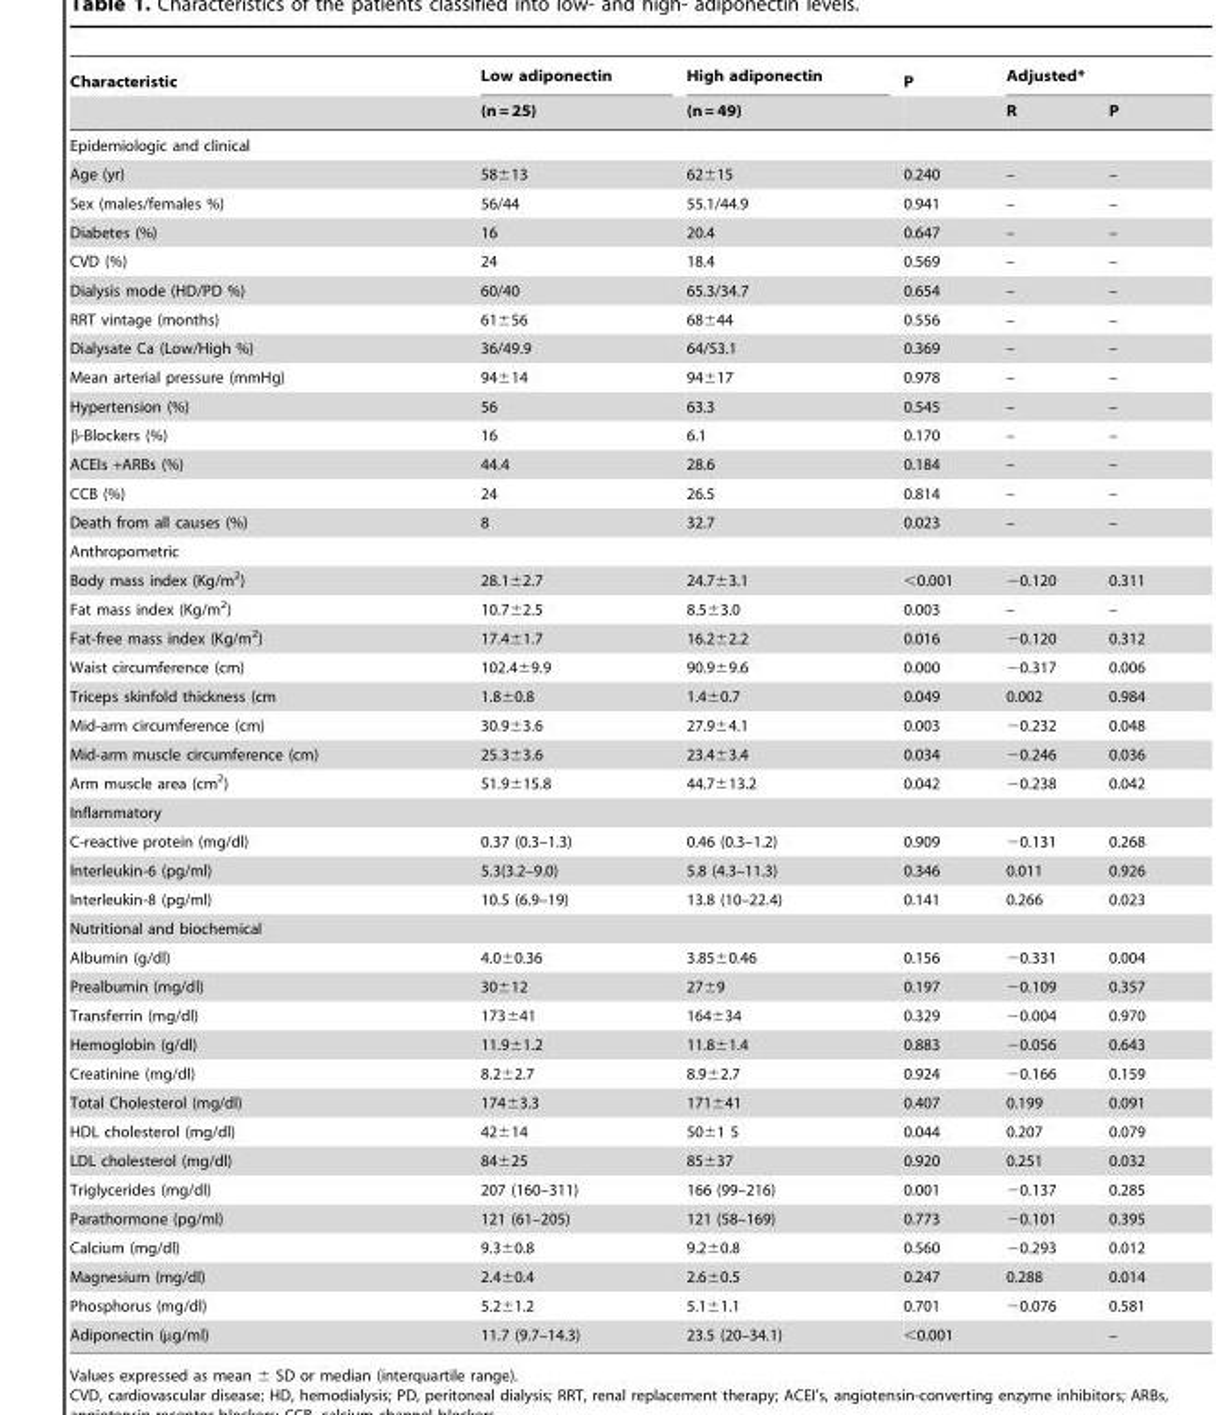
<table><thead><tr><td rowspan="2">Characteristic</td><td rowspan="2">Low adiponectin (n = 25)</td><td rowspan="2">High adiponectin (n = 49)</td><td rowspan="2">P</td><td colspan="2">Adjusted*</td></tr><tr><td>R</td><td>P</td></tr></thead><tbody><tr><td colspan="6">Epidemiologic and clinical</td></tr><tr><td>Age (yr)</td><td>58±13</td><td>62±15</td><td>0.240</td><td>–</td><td>–</td></tr><tr><td>Sex (males/females %)</td><td>56/44</td><td>55.1/44.9</td><td>0.941</td><td>–</td><td>–</td></tr><tr><td>Diabetes (%)</td><td>16</td><td>20.4</td><td>0.647</td><td>–</td><td>–</td></tr><tr><td>CVD (%)</td><td>24</td><td>18.4</td><td>0.569</td><td>–</td><td>–</td></tr><tr><td>Dialysis mode (HD/PD %)</td><td>60/40</td><td>65.3/34.7</td><td>0.654</td><td>–</td><td>–</td></tr><tr><td>RRT vintage (months)</td><td>61±56</td><td>68±44</td><td>0.556</td><td>–</td><td>–</td></tr><tr><td>Dialysate Ca (Low/High %)</td><td>36/49.9</td><td>64/53.1</td><td>0.369</td><td>–</td><td>–</td></tr><tr><td>Mean arterial pressure (mmHg)</td><td>94±14</td><td>94±17</td><td>0.978</td><td>–</td><td>–</td></tr><tr><td>Hypertension (%)</td><td>56</td><td>63.3</td><td>0.545</td><td>–</td><td>–</td></tr><tr><td>β-Blockers (%)</td><td>16</td><td>6.1</td><td>0.170</td><td>–</td><td>–</td></tr><tr><td>ACEIs +ARBs (%)</td><td>44.4</td><td>28.6</td><td>0.184</td><td>–</td><td>–</td></tr><tr><td>CCB (%)</td><td>24</td><td>26.5</td><td>0.814</td><td>–</td><td>–</td></tr><tr><td>Death from all causes (%)</td><td>8</td><td>32.7</td><td>0.023</td><td>–</td><td>–</td></tr><tr><td colspan="6">Anthropometric</td></tr><tr><td>Body mass index (Kg/m<sup>2</sup>)</td><td>28.1±2.7</td><td>24.7±3.1</td><td>&lt;0.001</td><td>−0.120</td><td>0.311</td></tr><tr><td>Fat mass index (Kg/m<sup>2</sup>)</td><td>10.7±2.5</td><td>8.5±3.0</td><td>0.003</td><td>–</td><td>–</td></tr><tr><td>Fat-free mass index (Kg/m<sup>2</sup>)</td><td>17.4±1.7</td><td>16.2±2.2</td><td>0.016</td><td>−0.120</td><td>0.312</td></tr><tr><td>Waist circumference (cm)</td><td>102.4±9.9</td><td>90.9±9.6</td><td>0.000</td><td>−0.317</td><td>0.006</td></tr><tr><td>Triceps skinfold thickness (cm</td><td>1.8±0.8</td><td>1.4±0.7</td><td>0.049</td><td>0.002</td><td>0.984</td></tr><tr><td>Mid-arm circumference (cm)</td><td>30.9±3.6</td><td>27.9±4.1</td><td>0.003</td><td>−0.232</td><td>0.048</td></tr><tr><td>Mid-arm muscle circumference (cm)</td><td>25.3±3.6</td><td>23.4±3.4</td><td>0.034</td><td>−0.246</td><td>0.036</td></tr><tr><td>Arm muscle area (cm<sup>2</sup>)</td><td>51.9±15.8</td><td>44.7±13.2</td><td>0.042</td><td>−0.238</td><td>0.042</td></tr><tr><td colspan="6">Inflammatory</td></tr><tr><td>C-reactive protein (mg/dl)</td><td>0.37 (0.3–1.3)</td><td>0.46 (0.3–1.2)</td><td>0.909</td><td>−0.131</td><td>0.268</td></tr><tr><td>Interleukin-6 (pg/ml)</td><td>5.3(3.2–9.0)</td><td>5.8 (4.3–11.3)</td><td>0.346</td><td>0.011</td><td>0.926</td></tr><tr><td>Interleukin-8 (pg/ml)</td><td>10.5 (6.9–19)</td><td>13.8 (10–22.4)</td><td>0.141</td><td>0.266</td><td>0.023</td></tr><tr><td colspan="6">Nutritional and biochemical</td></tr><tr><td>Albumin (g/dl)</td><td>4.0±0.36</td><td>3.85±0.46</td><td>0.156</td><td>−0.331</td><td>0.004</td></tr><tr><td>Prealbumin (mg/dl)</td><td>30±12</td><td>27±9</td><td>0.197</td><td>−0.109</td><td>0.357</td></tr><tr><td>Transferrin (mg/dl)</td><td>173±41</td><td>164±34</td><td>0.329</td><td>−0.004</td><td>0.970</td></tr><tr><td>Hemoglobin (g/dl)</td><td>11.9±1.2</td><td>11.8±1.4</td><td>0.883</td><td>−0.056</td><td>0.643</td></tr><tr><td>Creatinine (mg/dl)</td><td>8.2±2.7</td><td>8.9±2.7</td><td>0.924</td><td>−0.166</td><td>0.159</td></tr><tr><td>Total Cholesterol (mg/dl)</td><td>174±3.3</td><td>171±41</td><td>0.407</td><td>0.199</td><td>0.091</td></tr><tr><td>HDL cholesterol (mg/dl)</td><td>42±14</td><td>50±1 5</td><td>0.044</td><td>0.207</td><td>0.079</td></tr><tr><td>LDL cholesterol (mg/dl)</td><td>84±25</td><td>85±37</td><td>0.920</td><td>0.251</td><td>0.032</td></tr><tr><td>Triglycerides (mg/dl)</td><td>207 (160–311)</td><td>166 (99–216)</td><td>0.001</td><td>−0.137</td><td>0.285</td></tr><tr><td>Parathormone (pg/ml)</td><td>121 (61–205)</td><td>121 (58–169)</td><td>0.773</td><td>−0.101</td><td>0.395</td></tr><tr><td>Calcium (mg/dl)</td><td>9.3±0.8</td><td>9.2±0.8</td><td>0.560</td><td>−0.293</td><td>0.012</td></tr><tr><td>Magnesium (mg/dl)</td><td>2.4±0.4</td><td>2.6±0.5</td><td>0.247</td><td>0.288</td><td>0.014</td></tr><tr><td>Phosphorus (mg/dl)</td><td>5.2±1.2</td><td>5.1±1.1</td><td>0.701</td><td>−0.076</td><td>0.581</td></tr><tr><td>Adiponectin (µg/ml)</td><td>11.7 (9.7–14.3)</td><td>23.5 (20–34.1)</td><td>&lt;0.001</td><td></td><td>–</td></tr></tbody></table>